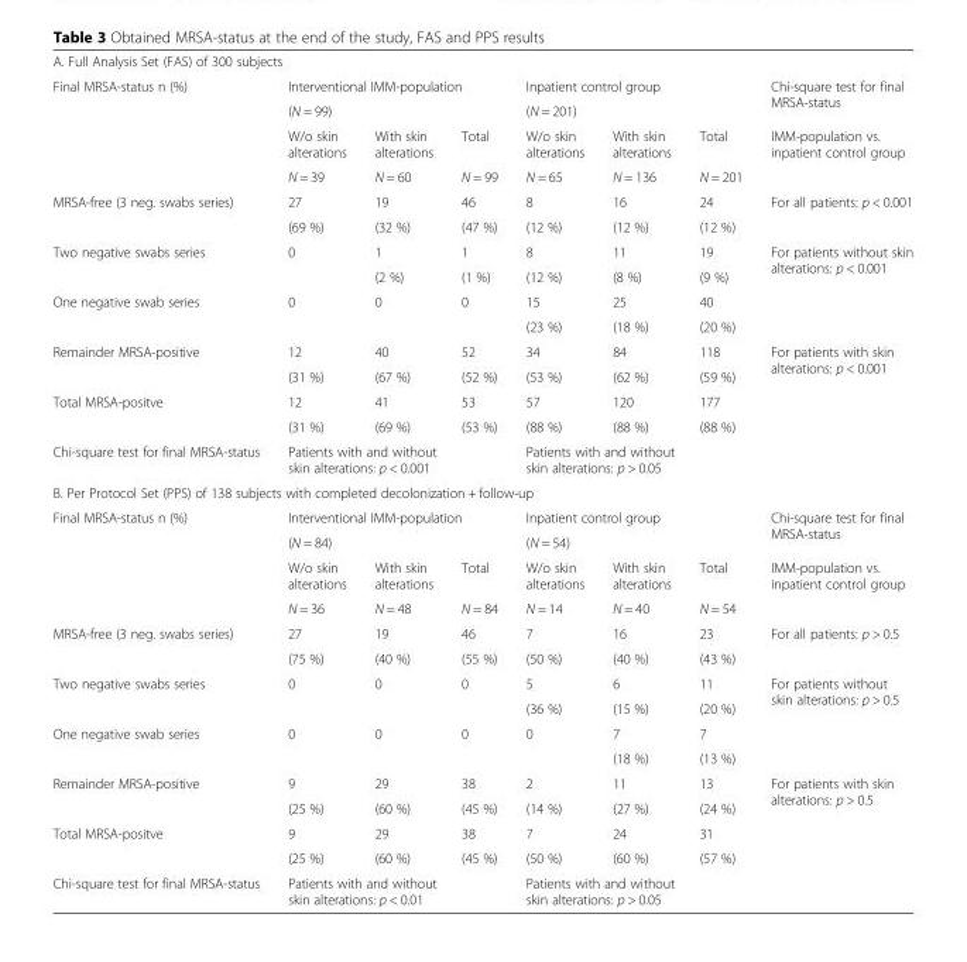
<table><tbody><tr><td colspan="8">A. Full Analysis Set (FAS) of 300 subjects</td></tr><tr><td rowspan="4">Final MRSA-status n (%)</td><td colspan="3">Interventional IMM-population</td><td colspan="3">Inpatient control group</td><td rowspan="2">Chi-square test for final MRSA-status</td></tr><tr><td colspan="3">(N = 99)</td><td colspan="3">(N = 201)</td></tr><tr><td>W/o skin alterations</td><td>With skin alterations</td><td>Total</td><td>W/o skin alterations</td><td>With skin alterations</td><td>Total</td><td rowspan="2">IMM-population vs. inpatient control group</td></tr><tr><td>N = 39</td><td>N = 60</td><td>N = 99</td><td>N = 65</td><td>N = 136</td><td>N = 201</td></tr><tr><td rowspan="2">MRSA-free (3 neg. swabs series)</td><td>27</td><td>19</td><td>46</td><td>8</td><td>16</td><td>24</td><td rowspan="2">For all patients: p &lt; 0.001</td></tr><tr><td>(69 %)</td><td>(32 %)</td><td>(47 %)</td><td>(12 %)</td><td>(12 %)</td><td>(12 %)</td></tr><tr><td rowspan="2">Two negative swabs series</td><td rowspan="2">0</td><td>1</td><td>1</td><td>8</td><td>11</td><td>19</td><td rowspan="4">For patients without skin alterations: p &lt; 0.001</td></tr><tr><td>(2 %)</td><td>(1 %)</td><td>(12 %)</td><td>(8 %)</td><td>(9 %)</td></tr><tr><td rowspan="2">One negative swab series</td><td rowspan="2">0</td><td rowspan="2">0</td><td rowspan="2">0</td><td>15</td><td>25</td><td>40</td></tr><tr><td>(23 %)</td><td>(18 %)</td><td>(20 %)</td></tr><tr><td rowspan="2">Remainder MRSA-positive</td><td>12</td><td>40</td><td>52</td><td>34</td><td>84</td><td>118</td><td rowspan="2">For patients with skin alterations: p &lt; 0.001</td></tr><tr><td>(31 %)</td><td>(67 %)</td><td>(52 %)</td><td>(53 %)</td><td>(62 %)</td><td>(59 %)</td></tr><tr><td rowspan="2">Total MRSA-positve</td><td>12</td><td>41</td><td>53</td><td>57</td><td>120</td><td>177</td><td rowspan="2"></td></tr><tr><td>(31 %)</td><td>(69 %)</td><td>(53 %)</td><td>(88 %)</td><td>(88 %)</td><td>(88 %)</td></tr><tr><td>Chi-square test for final MRSA-status</td><td colspan="3">Patients with and without skin alterations: p &lt; 0.001</td><td colspan="3">Patients with and without skin alterations: p &gt; 0.05</td><td></td></tr><tr><td colspan="8">B. Per Protocol Set (PPS) of 138 subjects with completed decolonization + follow-up</td></tr><tr><td rowspan="4">Final MRSA-status n (%)</td><td colspan="3">Interventional IMM-population</td><td colspan="3">Inpatient control group</td><td rowspan="2">Chi-square test for final MRSA-status</td></tr><tr><td colspan="3">(N = 84)</td><td colspan="3">(N = 54)</td></tr><tr><td>W/o skin alterations</td><td>With skin alterations</td><td>Total</td><td>W/o skin alterations</td><td>With skin alterations</td><td>Total</td><td rowspan="2">IMM-population vs. inpatient control group</td></tr><tr><td>N = 36</td><td>N = 48</td><td>N = 84</td><td>N = 14</td><td>N = 40</td><td>N = 54</td></tr><tr><td rowspan="2">MRSA-free (3 neg. swabs series)</td><td>27</td><td>19</td><td>46</td><td>7</td><td>16</td><td>23</td><td rowspan="2">For all patients: p &gt; 0.5</td></tr><tr><td>(75 %)</td><td>(40 %)</td><td>(55 %)</td><td>(50 %)</td><td>(40 %)</td><td>(43 %)</td></tr><tr><td rowspan="2">Two negative swabs series</td><td rowspan="2">0</td><td rowspan="2">0</td><td rowspan="2">0</td><td>5</td><td>6</td><td>11</td><td rowspan="4">For patients without skin alterations: p &gt; 0.5</td></tr><tr><td>(36 %)</td><td>(15 %)</td><td>(20 %)</td></tr><tr><td rowspan="2">One negative swab series</td><td rowspan="2">0</td><td rowspan="2">0</td><td rowspan="2">0</td><td rowspan="2">0</td><td>7</td><td>7</td></tr><tr><td>(18 %)</td><td>(13 %)</td></tr><tr><td rowspan="2">Remainder MRSA-positive</td><td>9</td><td>29</td><td>38</td><td>2</td><td>11</td><td>13</td><td rowspan="2">For patients with skin alterations: p &gt; 0.5</td></tr><tr><td>(25 %)</td><td>(60 %)</td><td>(45 %)</td><td>(14 %)</td><td>(27 %)</td><td>(24 %)</td></tr><tr><td rowspan="2">Total MRSA-positve</td><td>9</td><td>29</td><td>38</td><td>7</td><td>24</td><td>31</td><td rowspan="2"></td></tr><tr><td>(25 %)</td><td>(60 %)</td><td>(45 %)</td><td>(50 %)</td><td>(60 %)</td><td>(57 %)</td></tr><tr><td>Chi-square test for final MRSA-status</td><td colspan="3">Patients with and without skin alterations: p &lt; 0.01</td><td colspan="3">Patients with and without skin alterations: p &gt; 0.05</td><td></td></tr></tbody></table>